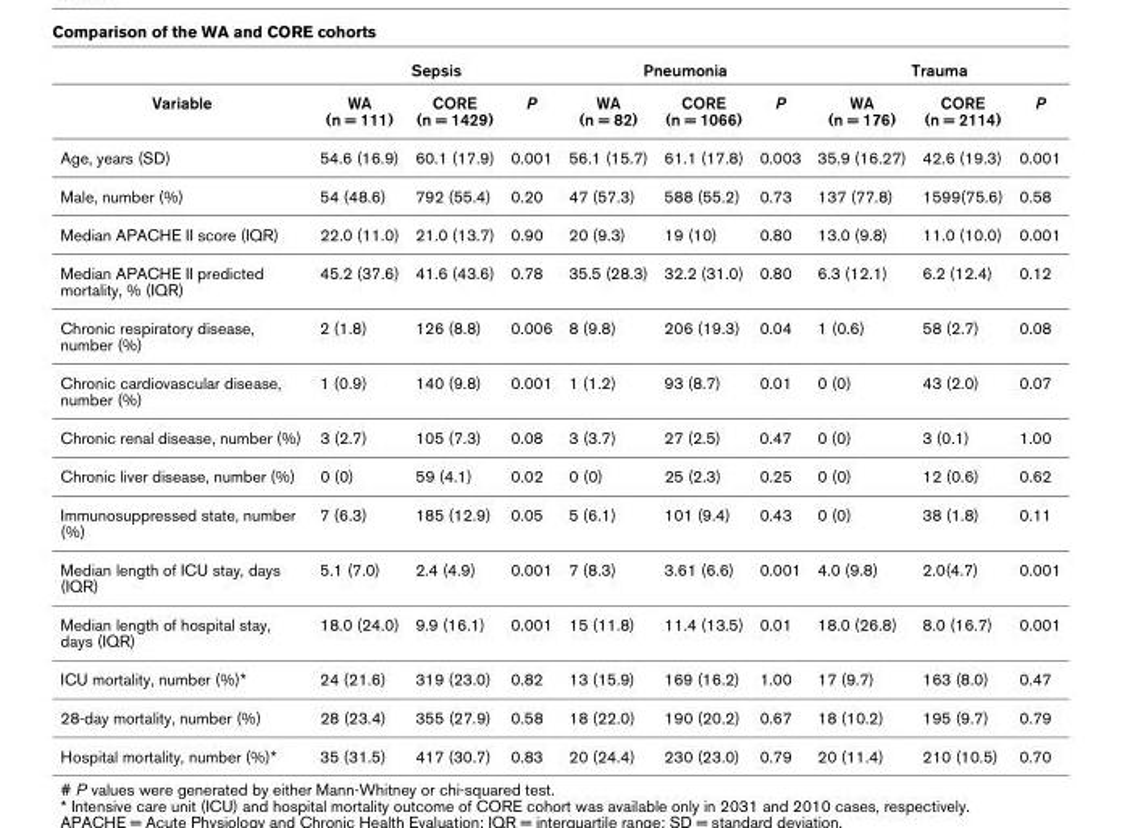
<table><thead><tr><td rowspan="2">Variable</td><td colspan="3">Sepsis</td><td colspan="3">Pneumonia</td><td colspan="3">Trauma</td></tr><tr><td>WA (n = 111)</td><td>CORE (n = 1429)</td><td>P</td><td>WA (n = 82)</td><td>CORE (n = 1066)</td><td>P</td><td>WA (n = 176)</td><td>CORE (n = 2114)</td><td>P</td></tr></thead><tbody><tr><td>Age, years (SD)</td><td>54.6 (16.9)</td><td>60.1 (17.9)</td><td>0.001</td><td>56.1 (15.7)</td><td>61.1 (17.8)</td><td>0.003</td><td>35.9 (16.27)</td><td>42.6 (19.3)</td><td>0.001</td></tr><tr><td>Male, number (%)</td><td>54 (48.6)</td><td>792 (55.4)</td><td>0.20</td><td>47 (57.3)</td><td>588 (55.2)</td><td>0.73</td><td>137 (77.8)</td><td>1599(75.6)</td><td>0.58</td></tr><tr><td>Median APACHE II score (IQR)</td><td>22.0 (11.0)</td><td>21.0 (13.7)</td><td>0.90</td><td>20 (9.3)</td><td>19 (10)</td><td>0.80</td><td>13.0 (9.8)</td><td>11.0 (10.0)</td><td>0.001</td></tr><tr><td>Median APACHE II predicted mortality, % (IQR)</td><td>45.2 (37.6)</td><td>41.6 (43.6)</td><td>0.78</td><td>35.5 (28.3)</td><td>32.2 (31.0)</td><td>0.80</td><td>6.3 (12.1)</td><td>6.2 (12.4)</td><td>0.12</td></tr><tr><td>Chronic respiratory disease, number (%)</td><td>2 (1.8)</td><td>126 (8.8)</td><td>0.006</td><td>8 (9.8)</td><td>206 (19.3)</td><td>0.04</td><td>1 (0.6)</td><td>58 (2.7)</td><td>0.08</td></tr><tr><td>Chronic cardiovascular disease, number (%)</td><td>1 (0.9)</td><td>140 (9.8)</td><td>0.001</td><td>1 (1.2)</td><td>93 (8.7)</td><td>0.01</td><td>0 (0)</td><td>43 (2.0)</td><td>0.07</td></tr><tr><td>Chronic renal disease, number (%)</td><td>3 (2.7)</td><td>105 (7.3)</td><td>0.08</td><td>3 (3.7)</td><td>27 (2.5)</td><td>0.47</td><td>0 (0)</td><td>3 (0.1)</td><td>1.00</td></tr><tr><td>Chronic liver disease, number (%)</td><td>0 (0)</td><td>59 (4.1)</td><td>0.02</td><td>0 (0)</td><td>25 (2.3)</td><td>0.25</td><td>0 (0)</td><td>12 (0.6)</td><td>0.62</td></tr><tr><td>Immunosuppressed state, number (%)</td><td>7 (6.3)</td><td>185 (12.9)</td><td>0.05</td><td>5 (6.1)</td><td>101 (9.4)</td><td>0.43</td><td>0 (0)</td><td>38 (1.8)</td><td>0.11</td></tr><tr><td>Median length of ICU stay, days (IQR)</td><td>5.1 (7.0)</td><td>2.4 (4.9)</td><td>0.001</td><td>7 (8.3)</td><td>3.61 (6.6)</td><td>0.001</td><td>4.0 (9.8)</td><td>2.0(4.7)</td><td>0.001</td></tr><tr><td>Median length of hospital stay, days (IQR)</td><td>18.0 (24.0)</td><td>9.9 (16.1)</td><td>0.001</td><td>15 (11.8)</td><td>11.4 (13.5)</td><td>0.01</td><td>18.0 (26.8)</td><td>8.0 (16.7)</td><td>0.001</td></tr><tr><td>ICU mortality, number (%)*</td><td>24 (21.6)</td><td>319 (23.0)</td><td>0.82</td><td>13 (15.9)</td><td>169 (16.2)</td><td>1.00</td><td>17 (9.7)</td><td>163 (8.0)</td><td>0.47</td></tr><tr><td>28-day mortality, number (%)</td><td>28 (23.4)</td><td>355 (27.9)</td><td>0.58</td><td>18 (22.0)</td><td>190 (20.2)</td><td>0.67</td><td>18 (10.2)</td><td>195 (9.7)</td><td>0.79</td></tr><tr><td>Hospital mortality, number (%)*</td><td>35 (31.5)</td><td>417 (30.7)</td><td>0.83</td><td>20 (24.4)</td><td>230 (23.0)</td><td>0.79</td><td>20 (11.4)</td><td>210 (10.5)</td><td>0.70</td></tr></tbody></table>